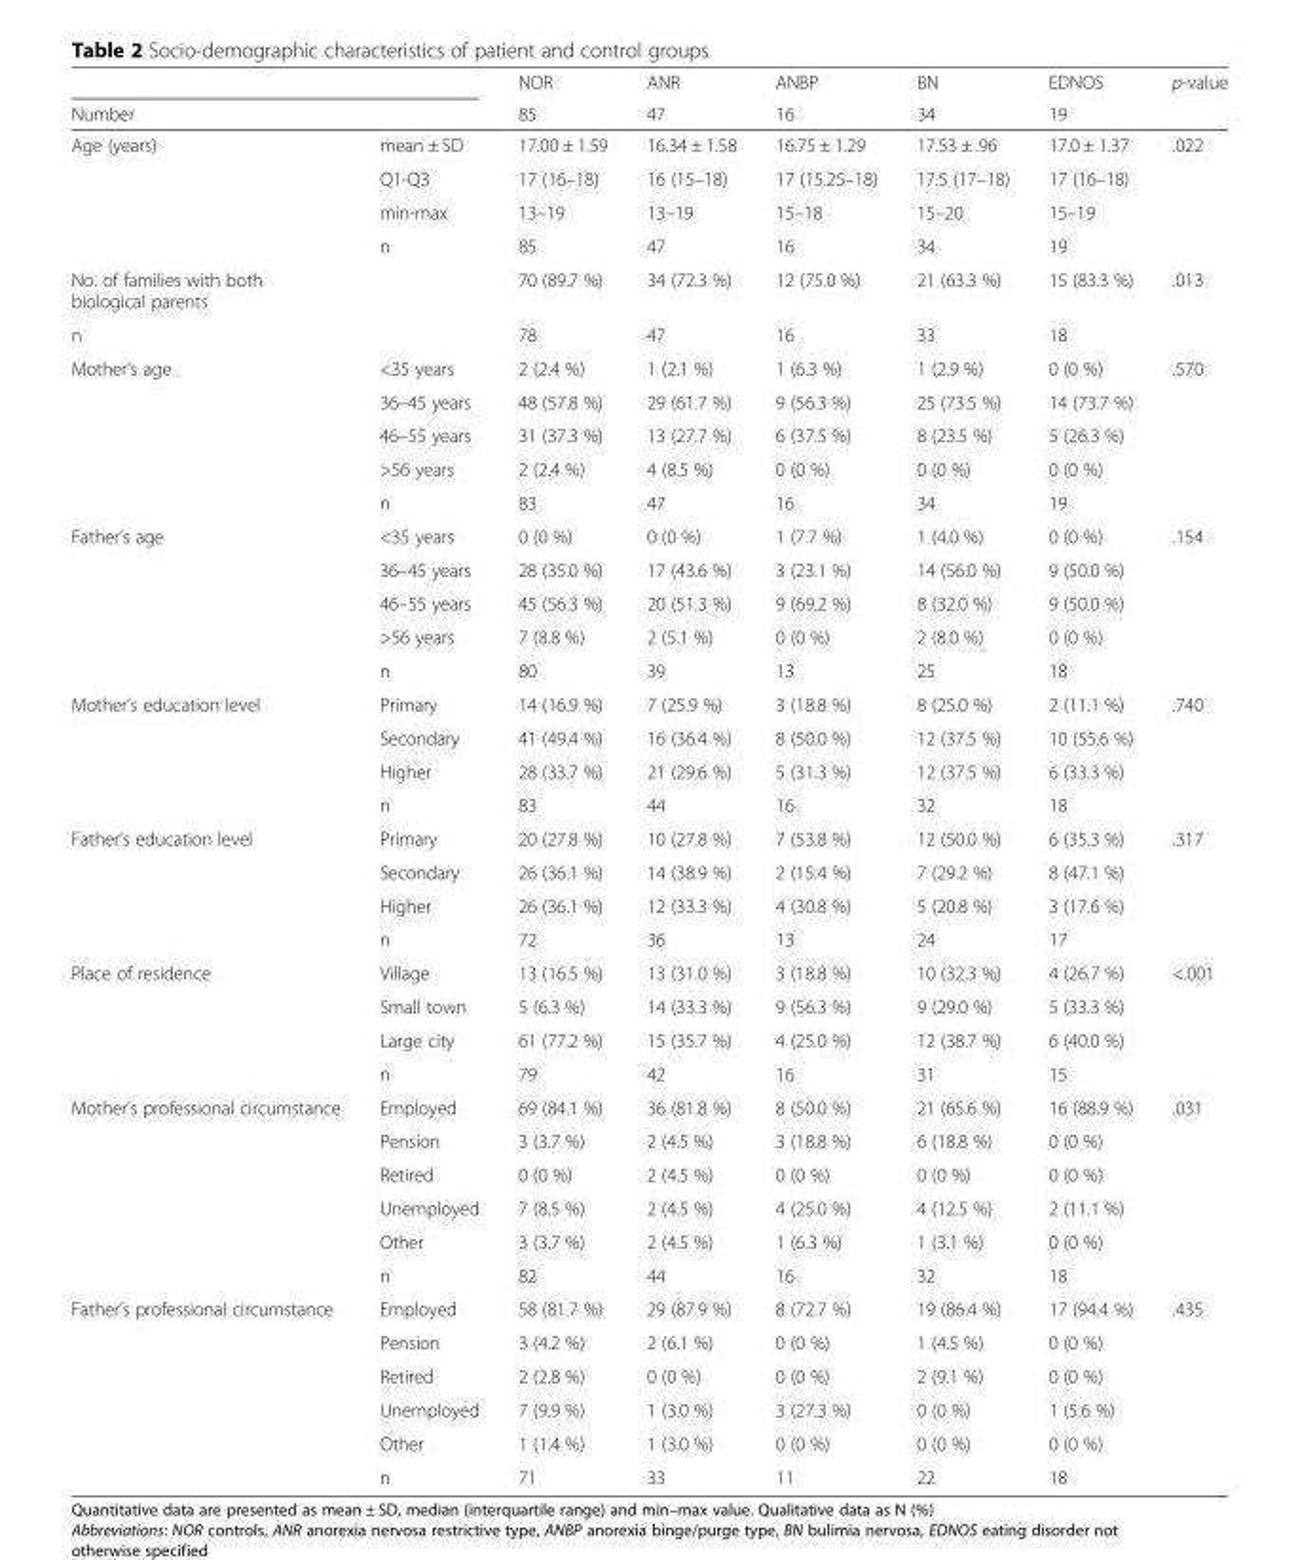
<table><thead><tr><td></td><td></td><td rowspan="2">NOR 85</td><td rowspan="2">ANR 47</td><td rowspan="2">ANBP 16</td><td rowspan="2">BN 34</td><td rowspan="2">EDNOS 19</td><td rowspan="2">p-value</td></tr><tr><td colspan="2">Number</td></tr></thead><tbody><tr><td rowspan="4">Age (years)</td><td>mean ± SD</td><td>17.00 ± 1.59</td><td>16.34 ± 1.58</td><td>16.75 ± 1.29</td><td>17.53 ± .96</td><td>17.0 ± 1.37</td><td rowspan="3">.022</td></tr><tr><td>Q1-Q3</td><td>17 (16–18)</td><td>16 (15–18)</td><td>17 (15.25–18)</td><td>17.5 (17–18)</td><td>17 (16–18)</td></tr><tr><td>min-max</td><td>13–19</td><td>13–19</td><td>15–18</td><td>15–20</td><td>15–19</td></tr><tr><td>n</td><td>85</td><td>47</td><td>16</td><td>34</td><td>19</td><td></td></tr><tr><td colspan="2">No. of families with both biological parents</td><td>70 (89.7 %)</td><td>34 (72.3 %)</td><td>12 (75.0 %)</td><td>21 (63.3 %)</td><td>15 (83.3 %)</td><td rowspan="2">.013</td></tr><tr><td colspan="2">n</td><td>78</td><td>47</td><td>16</td><td>33</td><td>18</td></tr><tr><td rowspan="5">Mother’s age</td><td>&lt;35 years</td><td>2 (2.4 %)</td><td>1 (2.1 %)</td><td>1 (6.3 %)</td><td>1 (2.9 %)</td><td>0 (0 %)</td><td rowspan="5">.570</td></tr><tr><td>36–45 years</td><td>48 (57.8 %)</td><td>29 (61.7 %)</td><td>9 (56.3 %)</td><td>25 (73.5 %)</td><td>14 (73.7 %)</td></tr><tr><td>46–55 years</td><td>31 (37.3 %)</td><td>13 (27.7 %)</td><td>6 (37.5 %)</td><td>8 (23.5 %)</td><td>5 (26.3 %)</td></tr><tr><td>&gt;56 years</td><td>2 (2.4 %)</td><td>4 (8.5 %)</td><td>0 (0 %)</td><td>0 (0 %)</td><td>0 (0 %)</td></tr><tr><td>n</td><td>83</td><td>47</td><td>16</td><td>34</td><td>19</td></tr><tr><td rowspan="5">Father’s age</td><td>&lt;35 years</td><td>0 (0 %)</td><td>0 (0 %)</td><td>1 (7.7 %)</td><td>1 (4.0 %)</td><td>0 (0 %)</td><td rowspan="5">.154</td></tr><tr><td>36–45 years</td><td>28 (35.0 %)</td><td>17 (43.6 %)</td><td>3 (23.1 %)</td><td>14 (56.0 %)</td><td>9 (50.0 %)</td></tr><tr><td>46–55 years</td><td>45 (56.3 %)</td><td>20 (51.3 %)</td><td>9 (69.2 %)</td><td>8 (32.0 %)</td><td>9 (50.0 %)</td></tr><tr><td>&gt;56 years</td><td>7 (8.8 %)</td><td>2 (5.1 %)</td><td>0 (0 %)</td><td>2 (8.0 %)</td><td>0 (0 %)</td></tr><tr><td>n</td><td>80</td><td>39</td><td>13</td><td>25</td><td>18</td></tr><tr><td rowspan="4">Mother’s education level</td><td>Primary</td><td>14 (16.9 %)</td><td>7 (25.9 %)</td><td>3 (18.8 %)</td><td>8 (25.0 %)</td><td>2 (11.1 %)</td><td rowspan="4">.740</td></tr><tr><td>Secondary</td><td>41 (49.4 %)</td><td>16 (36.4 %)</td><td>8 (50.0 %)</td><td>12 (37.5 %)</td><td>10 (55.6 %)</td></tr><tr><td>Higher</td><td>28 (33.7 %)</td><td>21 (29.6 %)</td><td>5 (31.3 %)</td><td>12 (37.5 %)</td><td>6 (33.3 %)</td></tr><tr><td>n</td><td>83</td><td>44</td><td>16</td><td>32</td><td>18</td></tr><tr><td rowspan="4">Father’s education level</td><td>Primary</td><td>20 (27.8 %)</td><td>10 (27.8 %)</td><td>7 (53.8 %)</td><td>12 (50.0 %)</td><td>6 (35.3 %)</td><td rowspan="4">.317</td></tr><tr><td>Secondary</td><td>26 (36.1 %)</td><td>14 (38.9 %)</td><td>2 (15.4 %)</td><td>7 (29.2 %)</td><td>8 (47.1 %)</td></tr><tr><td>Higher</td><td>26 (36.1 %)</td><td>12 (33.3 %)</td><td>4 (30.8 %)</td><td>5 (20.8 %)</td><td>3 (17.6 %)</td></tr><tr><td>n</td><td>72</td><td>36</td><td>13</td><td>24</td><td>17</td></tr><tr><td rowspan="4">Place of residence</td><td>Village</td><td>13 (16.5 %)</td><td>13 (31.0 %)</td><td>3 (18.8 %)</td><td>10 (32.3 %)</td><td>4 (26.7 %)</td><td rowspan="4">&lt;.001</td></tr><tr><td>Small town</td><td>5 (6.3 %)</td><td>14 (33.3 %)</td><td>9 (56.3 %)</td><td>9 (29.0 %)</td><td>5 (33.3 %)</td></tr><tr><td>Large city</td><td>61 (77.2 %)</td><td>15 (35.7 %)</td><td>4 (25.0 %)</td><td>12 (38.7 %)</td><td>6 (40.0 %)</td></tr><tr><td>n</td><td>79</td><td>42</td><td>16</td><td>31</td><td>15</td></tr><tr><td rowspan="6">Mother’s professional circumstance</td><td>Employed</td><td>69 (84.1 %)</td><td>36 (81.8 %)</td><td>8 (50.0 %)</td><td>21 (65.6 %)</td><td>16 (88.9 %)</td><td rowspan="6">.031</td></tr><tr><td>Pension</td><td>3 (3.7 %)</td><td>2 (4.5 %)</td><td>3 (18.8 %)</td><td>6 (18.8 %)</td><td>0 (0 %)</td></tr><tr><td>Retired</td><td>0 (0 %)</td><td>2 (4.5 %)</td><td>0 (0 %)</td><td>0 (0 %)</td><td>0 (0 %)</td></tr><tr><td>Unemployed</td><td>7 (8.5 %)</td><td>2 (4.5 %)</td><td>4 (25.0 %)</td><td>4 (12.5 %)</td><td>2 (11.1 %)</td></tr><tr><td>Other</td><td>3 (3.7 %)</td><td>2 (4.5 %)</td><td>1 (6.3 %)</td><td>1 (3.1 %)</td><td>0 (0 %)</td></tr><tr><td>n</td><td>82</td><td>44</td><td>16</td><td>32</td><td>18</td></tr><tr><td rowspan="6">Father’s professional circumstance</td><td>Employed</td><td>58 (81.7 %)</td><td>29 (87.9 %)</td><td>8 (72.7 %)</td><td>19 (86.4 %)</td><td>17 (94.4 %)</td><td rowspan="6">.435</td></tr><tr><td>Pension</td><td>3 (4.2 %)</td><td>2 (6.1 %)</td><td>0 (0 %)</td><td>1 (4.5 %)</td><td>0 (0 %)</td></tr><tr><td>Retired</td><td>2 (2.8 %)</td><td>0 (0 %)</td><td>0 (0 %)</td><td>2 (9.1 %)</td><td>0 (0 %)</td></tr><tr><td>Unemployed</td><td>7 (9.9 %)</td><td>1 (3.0 %)</td><td>3 (27.3 %)</td><td>0 (0 %)</td><td>1 (5.6 %)</td></tr><tr><td>Other</td><td>1 (1.4 %)</td><td>1 (3.0 %)</td><td>0 (0 %)</td><td>0 (0 %)</td><td>0 (0 %)</td></tr><tr><td>n</td><td>71</td><td>33</td><td>11</td><td>22</td><td>18</td></tr></tbody></table>